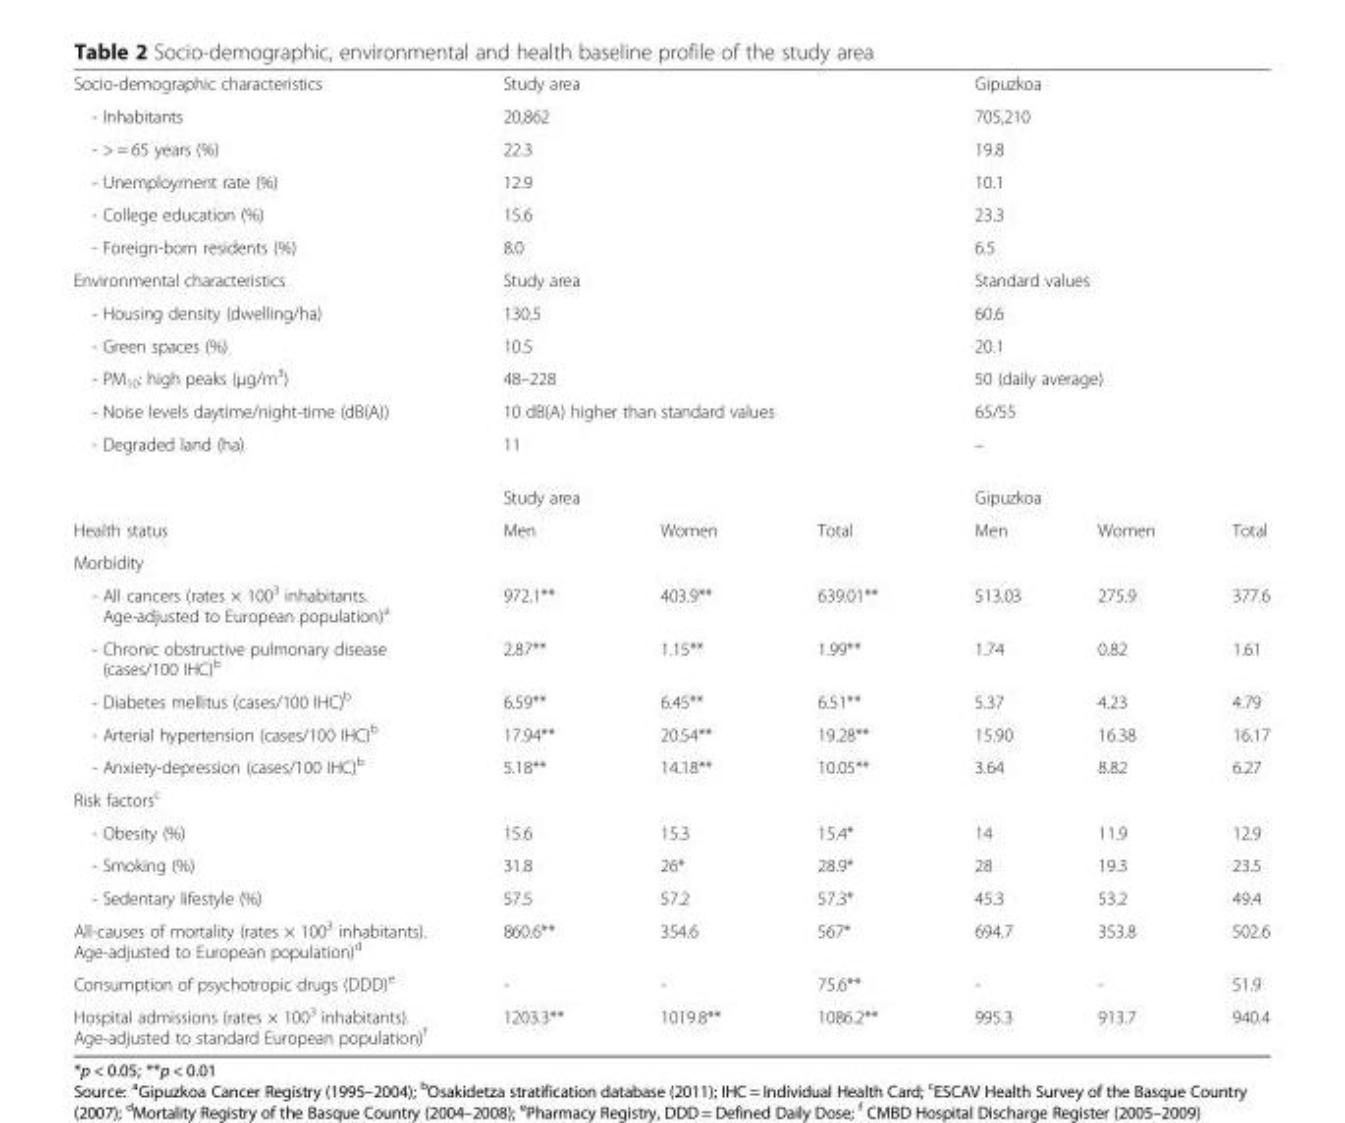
<table><tbody><tr><td>Socio-demographic characteristics</td><td colspan="3">Study area</td><td colspan="3">Gipuzkoa</td></tr><tr><td>- Inhabitants</td><td colspan="3">20,862</td><td colspan="3">705,210</td></tr><tr><td>- &gt; = 65 years (%)</td><td colspan="3">22.3</td><td colspan="3">19.8</td></tr><tr><td>- Unemployment rate (%)</td><td colspan="3">12.9</td><td colspan="3">10.1</td></tr><tr><td>- College education (%)</td><td colspan="3">15.6</td><td colspan="3">23.3</td></tr><tr><td>- Foreign-born residents (%)</td><td colspan="3">8.0</td><td colspan="3">6.5</td></tr><tr><td>Environmental characteristics</td><td colspan="3">Study area</td><td colspan="3">Standard values</td></tr><tr><td>- Housing density (dwelling/ha)</td><td colspan="3">130.5</td><td colspan="3">60.6</td></tr><tr><td>- Green spaces (%)</td><td colspan="3">10.5</td><td colspan="3">20.1</td></tr><tr><td>- PM<sub>10</sub>: high peaks (μg/m<sup>3</sup>)</td><td colspan="3">48–228</td><td colspan="3">50 (daily average)</td></tr><tr><td>- Noise levels daytime/night-time (dB(A))</td><td colspan="3">10 dB(A) higher than standard values</td><td colspan="3">65/55</td></tr><tr><td rowspan="2">- Degraded land (ha)</td><td colspan="3">11</td><td colspan="3">–</td></tr><tr><td colspan="3">Study area</td><td colspan="3">Gipuzkoa</td></tr><tr><td>Health status</td><td>Men</td><td>Women</td><td>Total</td><td>Men</td><td>Women</td><td>Total</td></tr><tr><td colspan="7">Morbidity</td></tr><tr><td>- All cancers (rates × 100<sup>3</sup> inhabitants. Age-adjusted to European population)<sup>a</sup></td><td>972.1**</td><td>403.9**</td><td>639.01**</td><td>513.03</td><td>275.9</td><td>377.6</td></tr><tr><td>- Chronic obstructive pulmonary disease (cases/100 IHC)<sup>b</sup></td><td>2.87**</td><td>1.15**</td><td>1.99**</td><td>1.74</td><td>0.82</td><td>1.61</td></tr><tr><td>- Diabetes mellitus (cases/100 IHC)<sup>b</sup></td><td>6.59**</td><td>6.45**</td><td>6.51**</td><td>5.37</td><td>4.23</td><td>4.79</td></tr><tr><td>- Arterial hypertension (cases/100 IHC)<sup>b</sup></td><td>17.94**</td><td>20.54**</td><td>19.28**</td><td>15.90</td><td>16.38</td><td>16.17</td></tr><tr><td>- Anxiety-depression (cases/100 IHC)<sup>b</sup></td><td>5.18**</td><td>14.18**</td><td>10.05**</td><td>3.64</td><td>8.82</td><td>6.27</td></tr><tr><td colspan="7">Risk factors<sup>c</sup></td></tr><tr><td>- Obesity (%)</td><td>15.6</td><td>15.3</td><td>15.4*</td><td>14</td><td>11.9</td><td>12.9</td></tr><tr><td>- Smoking (%)</td><td>31.8</td><td>26*</td><td>28.9*</td><td>28</td><td>19.3</td><td>23.5</td></tr><tr><td>- Sedentary lifestyle (%)</td><td>57.5</td><td>57.2</td><td>57.3*</td><td>45.3</td><td>53.2</td><td>49.4</td></tr><tr><td>All-causes of mortality (rates × 100<sup>3</sup> inhabitants). Age-adjusted to European population)<sup>d</sup></td><td>860.6**</td><td>354.6</td><td>567*</td><td>694.7</td><td>353.8</td><td>502.6</td></tr><tr><td>Consumption of psychotropic drugs (DDD)<sup>e</sup></td><td>-</td><td>-</td><td>75.6**</td><td>-</td><td>-</td><td>51.9</td></tr><tr><td>Hospital admissions (rates × 100<sup>3</sup> inhabitants). Age-adjusted to standard European population)<sup>f</sup></td><td>1203.3**</td><td>1019.8**</td><td>1086.2**</td><td>995.3</td><td>913.7</td><td>940.4</td></tr></tbody></table>